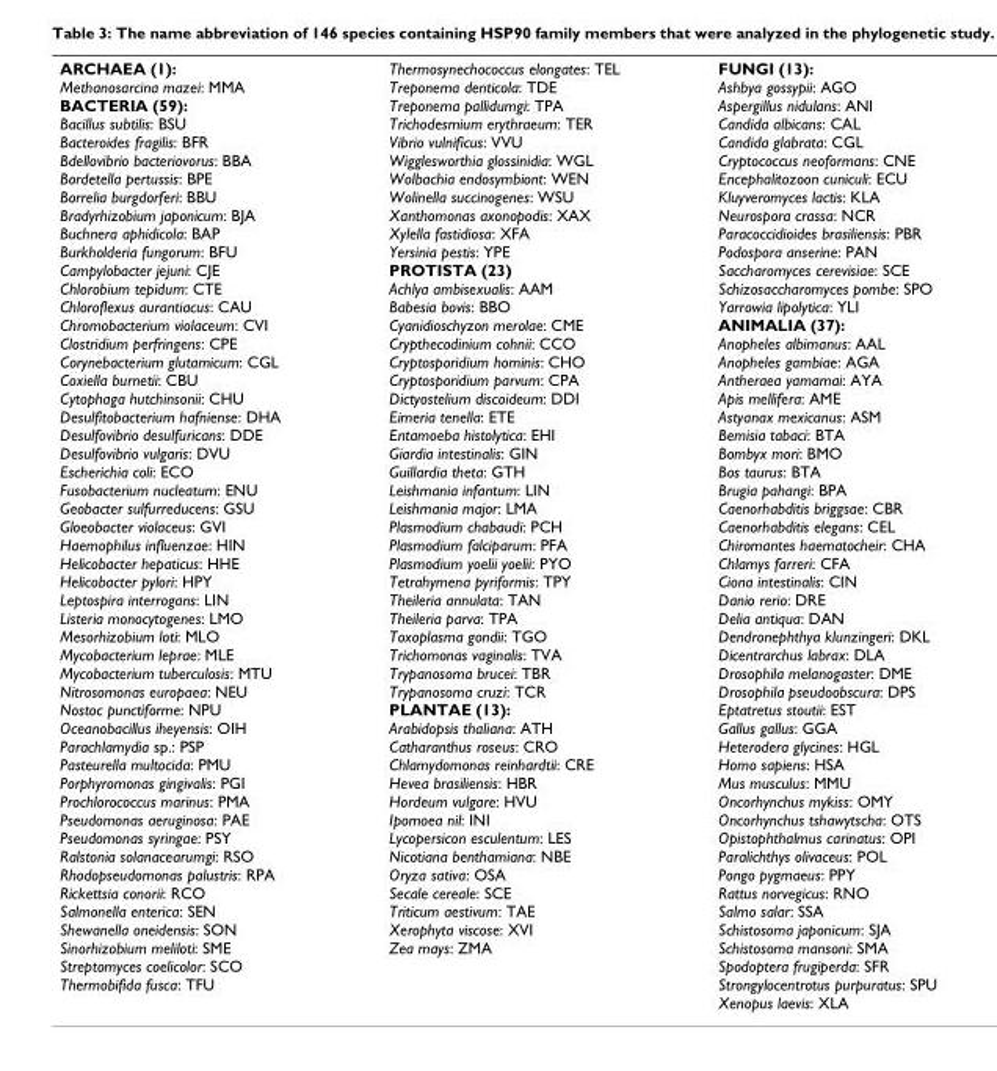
<table><tbody><tr><td>ARCHAEA (1): Methanosarcina mazei: MMA BACTERIA (59): Bacillus subtilis: BSU Bacteroides fragilis: BFR Bdellovibrio bacteriovorus: BBA Bordetella pertussis: BPE Borrelia burgdorferi: BBU Bradyrhizobium japonicum: BJA Buchnera aphidicola: BAP Burkholderia fungorum: BFU Campylobacter jejuni: CJE Chlorobium tepidum: CTE Chloroflexus aurantiacus: CAU Chromobacterium violaceum: CVI Clostridium perfringens: CPE Corynebacterium glutamicum: CGL Coxiella burnetii: CBU Cytophaga hutchinsonii: CHU Desulfitobacterium hafniense: DHA Desulfovibrio desulfuricans: DDE Desulfovibrio vulgaris: DVU Escherichia coli: ECO Fusobacterium nucleatum: ENU Geobacter sulfurreducens: GSU Gloeobacter violaceus: GVI Haemophilus influenzae: HIN Helicobacter hepaticus: HHE Helicobacter pylori: HPY Leptospira interrogans: LIN Listeria monocytogenes: LMO Mesorhizobium loti: MLO Mycobacterium leprae: MLE Mycobacterium tuberculosis: MTU Nitrosomonas europaea: NEU Nostoc punctiforme: NPU Oceanobacillus iheyensis: OIH Parachlamydia sp.: PSP Pasteurella multocida: PMU Porphyromonas gingivalis: PGI Prochlorococcus marinus: PMA Pseudomonas aeruginosa: PAE Pseudomonas syringae: PSY Ralstonia solanacearumgi: RSO Rhodopseudomonas palustris: RPA Rickettsia conorii: RCO Salmonella enterica: SEN Shewanella oneidensis: SON Sinorhizobium meliloti: SME Streptomyces coelicolor: SCO Thermobifida fusca: TFU</td><td>Thermosynechococcus elongates: TEL Treponema denticola: TDE Treponema pallidumgi: TPA Trichodesmium erythraeum: TER Vibrio vulnificus: VVU Wigglesworthia glossinidia: WGL Wolbachia endosymbiont: WEN Wolinella succinogenes: WSU Xanthomonas axonopodis: XAX Xylella fastidiosa: XFA Yersinia pestis: YPE PROTISTA (23) Achlya ambisexualis: AAM Babesia bovis: BBO Cyanidioschyzon merolae: CME Crypthecodinium cohnii: CCO Cryptosporidium hominis: CHO Cryptosporidium parvum: CPA Dictyostelium discoideum: DDI Eimeria tenella: ETE Entamoeba histolytica: EHI Giardia intestinalis: GIN Guillardia theta: GTH Leishmania infantum: LIN Leishmania major: LMA Plasmodium chabaudi: PCH Plasmodium falciparum: PFA Plasmodium yoelii yoelii: PYO Tetrahymena pyriformis: TPY Theileria annulata: TAN Theileria parva: TPA Toxoplasma gondii: TGO Trichomonas vaginalis: TVA Trypanosoma brucei: TBR Trypanosoma cruzi: TCR PLANTAE (13): Arabidopsis thaliana: ATH Catharanthus roseus: CRO Chlamydomonas reinhardtii: CRE Hevea brasiliensis: HBR Hordeum vulgare: HVU Ipomoea nil: INI Lycopersicon esculentum: LES Nicotiana benthamiana: NBE Oryza sativa: OSA Secale cereale: SCE Triticum aestivum: TAE Xerophyta viscose: XVI Zea mays: ZMA</td><td>FUNGI (13): Ashbya gossypii: AGO Aspergillus nidulans: ANI Candida albicans: CAL Candida glabrata: CGL Cryptococcus neoformans: CNE Encephalitozoon cuniculi: ECU Kluyveromyces lactis: KLA Neurospora crassa: NCR Paracoccidioides brasiliensis: PBR Podospora anserine: PAN Saccharomyces cerevisiae: SCE Schizosaccharomyces pombe: SPO Yarrowia lipolytica: YLI ANIMALIA (37): Anopheles albimanus: AAL Anopheles gambiae: AGA Antheraea yamamai: AYA Apis mellifera: AME Astyanax mexicanus: ASM Bemisia tabaci: BTA Bombyx mori: BMO Bos taurus: BTA Brugia pahangi: BPA Caenorhabditis briggsae: CBR Caenorhabditis elegans: CEL Chiromantes haematocheir: CHA Chlamys farreri: CFA Ciona intestinalis: CIN Danio rerio: DRE Delia antiqua: DAN Dendronephthya klunzingeri: DKL Dicentrarchus labrax: DLA Drosophila melanogaster: DME Drosophila pseudoobscura: DPS Eptatretus stoutii: EST Gallus gallus: GGA Heterodera glycines: HGL Homo sapiens: HSA Mus musculus: MMU Oncorhynchus mykiss: OMY Oncorhynchus tshawytscha: OTS Opistophthalmus carinatus: OPI Paralichthys olivaceus: POL Pongo pygmaeus: PPY Rattus norvegicus: RNO Salmo salar: SSA Schistosoma japonicum: SJA Schistosoma mansoni: SMA Spodoptera frugiperda: SFR Strongylocentrotus purpuratus: SPU Xenopus laevis: XLA</td></tr></tbody></table>